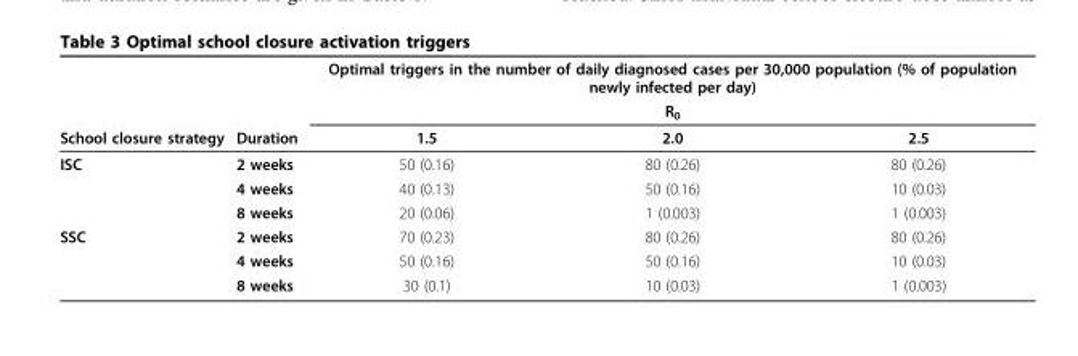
<table><thead><tr><td rowspan="3">School closure strategy</td><td rowspan="3">Duration</td><td rowspan="2" colspan="3">Optimal triggers in the number of daily diagnosed cases per 30,000 population (% of population newly infected per day) R<sub>0</sub></td></tr><tr></tr><tr><td>1.5</td><td>2.0</td><td>2.5</td></tr></thead><tbody><tr><td rowspan="3">ISC</td><td>2 weeks</td><td>50 (0.16)</td><td>80 (0.26)</td><td>80 (0.26)</td></tr><tr><td>4 weeks</td><td>40 (0.13)</td><td>50 (0.16)</td><td>10 (0.03)</td></tr><tr><td>8 weeks</td><td>20 (0.06)</td><td>1 (0.003)</td><td>1 (0.003)</td></tr><tr><td rowspan="3">SSC</td><td>2 weeks</td><td>70 (0.23)</td><td>80 (0.26)</td><td>80 (0.26)</td></tr><tr><td>4 weeks</td><td>50 (0.16)</td><td>50 (0.16)</td><td>10 (0.03)</td></tr><tr><td>8 weeks</td><td>30 (0.1)</td><td>10 (0.03)</td><td>1 (0.003)</td></tr></tbody></table>